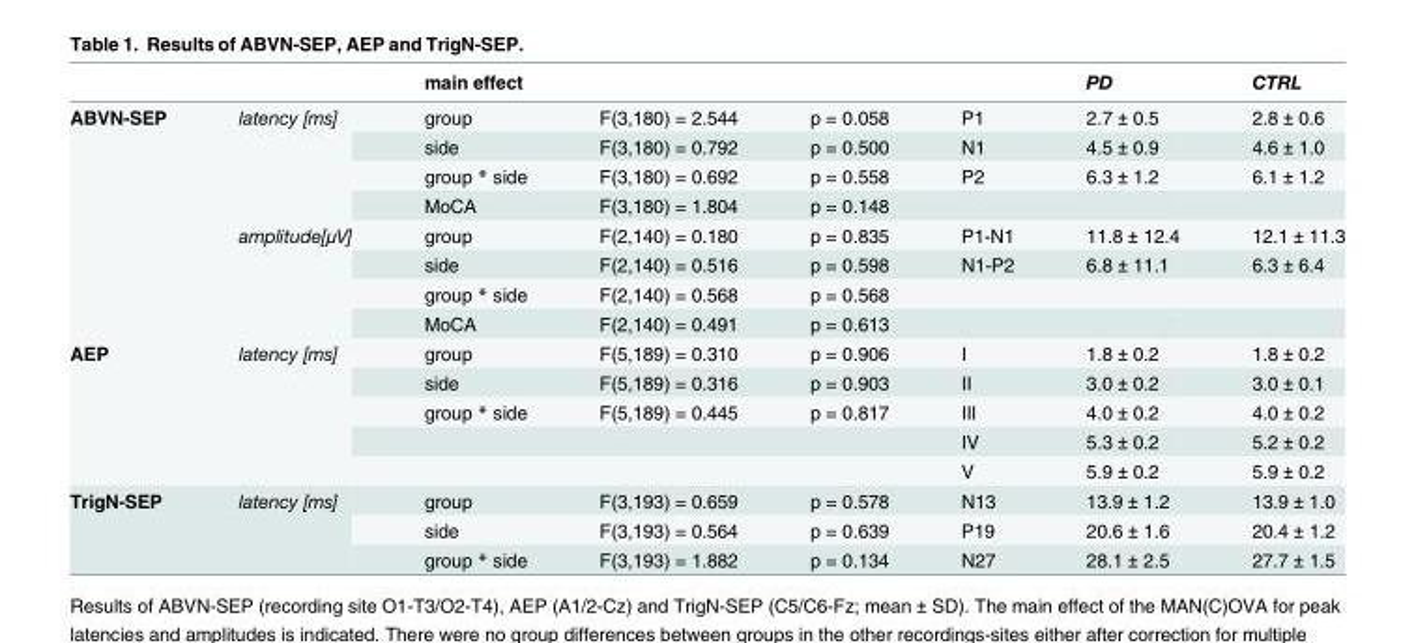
<table><thead><tr><td></td><td></td><td>main effect</td><td></td><td></td><td></td><td>PD</td><td>CTRL</td></tr></thead><tbody><tr><td rowspan="8">ABVN-SEP</td><td rowspan="4">latency [ms]</td><td>group</td><td>F(3,180) = 2.544</td><td>p = 0.058</td><td>P1</td><td>2.7 ± 0.5</td><td>2.8 ± 0.6</td></tr><tr><td>side</td><td>F(3,180) = 0.792</td><td>p = 0.500</td><td>N1</td><td>4.5 ± 0.9</td><td>4.6 ± 1.0</td></tr><tr><td>group * side</td><td>F(3,180) = 0.692</td><td>p = 0.558</td><td>P2</td><td>6.3 ± 1.2</td><td>6.1 ± 1.2</td></tr><tr><td>MoCA</td><td>F(3,180) = 1.804</td><td>p = 0.148</td><td></td><td></td><td></td></tr><tr><td rowspan="4">amplitude[μV]</td><td>group</td><td>F(2,140) = 0.180</td><td>p = 0.835</td><td>P1-N1</td><td>11.8 ± 12.4</td><td>12.1 ± 11.3</td></tr><tr><td>side</td><td>F(2,140) = 0.516</td><td>p = 0.598</td><td>N1-P2</td><td>6.8 ± 11.1</td><td>6.3 ± 6.4</td></tr><tr><td>group * side</td><td>F(2,140) = 0.568</td><td>p = 0.568</td><td></td><td></td><td></td></tr><tr><td>MoCA</td><td>F(2,140) = 0.491</td><td>p = 0.613</td><td></td><td></td><td></td></tr><tr><td rowspan="5">AEP</td><td rowspan="5">latency [ms]</td><td>group</td><td>F(5,189) = 0.310</td><td>p = 0.906</td><td>I</td><td>1.8 ± 0.2</td><td>1.8 ± 0.2</td></tr><tr><td>side</td><td>F(5,189) = 0.316</td><td>p = 0.903</td><td>II</td><td>3.0 ± 0.2</td><td>3.0 ± 0.1</td></tr><tr><td>group * side</td><td>F(5,189) = 0.445</td><td>p = 0.817</td><td>III</td><td>4.0 ± 0.2</td><td>4.0 ± 0.2</td></tr><tr><td></td><td></td><td></td><td>IV</td><td>5.3 ± 0.2</td><td>5.2 ± 0.2</td></tr><tr><td></td><td></td><td></td><td>V</td><td>5.9 ± 0.2</td><td>5.9 ± 0.2</td></tr><tr><td rowspan="3">TrigN-SEP</td><td rowspan="3">latency [ms]</td><td>group</td><td>F(3,193) = 0.659</td><td>p = 0.578</td><td>N13</td><td>13.9 ± 1.2</td><td>13.9 ± 1.0</td></tr><tr><td>side</td><td>F(3,193) = 0.564</td><td>p = 0.639</td><td>P19</td><td>20.6 ± 1.6</td><td>20.4 ± 1.2</td></tr><tr><td>group * side</td><td>F(3,193) = 1.882</td><td>p = 0.134</td><td>N27</td><td>28.1 ± 2.5</td><td>27.7 ± 1.5</td></tr></tbody></table>